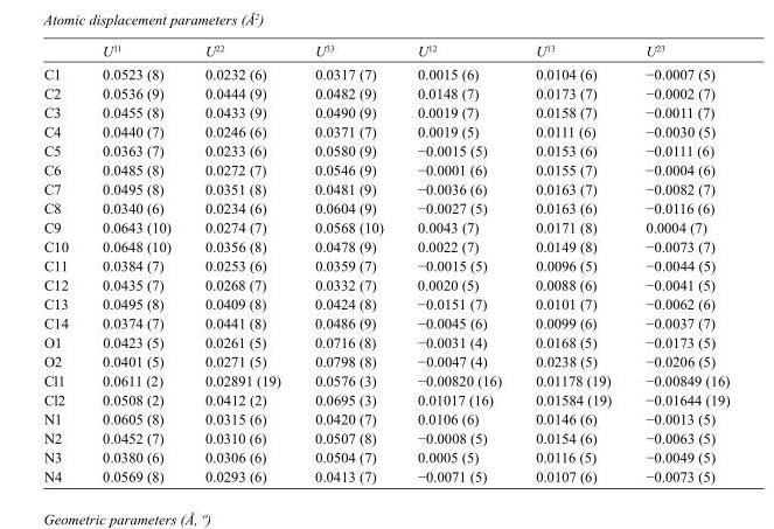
<table><thead><tr><td></td><td>U<sup>11</sup></td><td>U<sup>22</sup></td><td>U<sup>33</sup></td><td>U<sup>12</sup></td><td>U<sup>13</sup></td><td>U<sup>23</sup></td></tr></thead><tbody><tr><td>C1</td><td>0.0523 (8)</td><td>0.0232 (6)</td><td>0.0317 (7)</td><td>0.0015 (6)</td><td>0.0104 (6)</td><td>−0.0007 (5)</td></tr><tr><td>C2</td><td>0.0536 (9)</td><td>0.0444 (9)</td><td>0.0482 (9)</td><td>0.0148 (7)</td><td>0.0173 (7)</td><td>−0.0002 (7)</td></tr><tr><td>C3</td><td>0.0455 (8)</td><td>0.0433 (9)</td><td>0.0490 (9)</td><td>0.0019 (7)</td><td>0.0158 (7)</td><td>−0.0011 (7)</td></tr><tr><td>C4</td><td>0.0440 (7)</td><td>0.0246 (6)</td><td>0.0371 (7)</td><td>0.0019 (5)</td><td>0.0111 (6)</td><td>−0.0030 (5)</td></tr><tr><td>C5</td><td>0.0363 (7)</td><td>0.0233 (6)</td><td>0.0580 (9)</td><td>−0.0015 (5)</td><td>0.0153 (6)</td><td>−0.0111 (6)</td></tr><tr><td>C6</td><td>0.0485 (8)</td><td>0.0272 (7)</td><td>0.0546 (9)</td><td>−0.0001 (6)</td><td>0.0155 (7)</td><td>−0.0004 (6)</td></tr><tr><td>C7</td><td>0.0495 (8)</td><td>0.0351 (8)</td><td>0.0481 (9)</td><td>−0.0036 (6)</td><td>0.0163 (7)</td><td>−0.0082 (7)</td></tr><tr><td>C8</td><td>0.0340 (6)</td><td>0.0234 (6)</td><td>0.0604 (9)</td><td>−0.0027 (5)</td><td>0.0163 (6)</td><td>−0.0116 (6)</td></tr><tr><td>C9</td><td>0.0643 (10)</td><td>0.0274 (7)</td><td>0.0568 (10)</td><td>0.0043 (7)</td><td>0.0171 (8)</td><td>0.0004 (7)</td></tr><tr><td>C10</td><td>0.0648 (10)</td><td>0.0356 (8)</td><td>0.0478 (9)</td><td>0.0022 (7)</td><td>0.0149 (8)</td><td>−0.0073 (7)</td></tr><tr><td>C11</td><td>0.0384 (7)</td><td>0.0253 (6)</td><td>0.0359 (7)</td><td>−0.0015 (5)</td><td>0.0096 (5)</td><td>−0.0044 (5)</td></tr><tr><td>C12</td><td>0.0435 (7)</td><td>0.0268 (7)</td><td>0.0332 (7)</td><td>0.0020 (5)</td><td>0.0088 (6)</td><td>−0.0041 (5)</td></tr><tr><td>C13</td><td>0.0495 (8)</td><td>0.0409 (8)</td><td>0.0424 (8)</td><td>−0.0151 (7)</td><td>0.0101 (7)</td><td>−0.0062 (6)</td></tr><tr><td>C14</td><td>0.0374 (7)</td><td>0.0441 (8)</td><td>0.0486 (9)</td><td>−0.0045 (6)</td><td>0.0099 (6)</td><td>−0.0037 (7)</td></tr><tr><td>O1</td><td>0.0423 (5)</td><td>0.0261 (5)</td><td>0.0716 (8)</td><td>−0.0031 (4)</td><td>0.0168 (5)</td><td>−0.0173 (5)</td></tr><tr><td>O2</td><td>0.0401 (5)</td><td>0.0271 (5)</td><td>0.0798 (8)</td><td>−0.0047 (4)</td><td>0.0238 (5)</td><td>−0.0206 (5)</td></tr><tr><td>Cl1</td><td>0.0611 (2)</td><td>0.02891 (19)</td><td>0.0576 (3)</td><td>−0.00820 (16)</td><td>0.01178 (19)</td><td>−0.00849 (16)</td></tr><tr><td>Cl2</td><td>0.0508 (2)</td><td>0.0412 (2)</td><td>0.0695 (3)</td><td>0.01017 (16)</td><td>0.01584 (19)</td><td>−0.01644 (19)</td></tr><tr><td>N1</td><td>0.0605 (8)</td><td>0.0315 (6)</td><td>0.0420 (7)</td><td>0.0106 (6)</td><td>0.0146 (6)</td><td>−0.0013 (5)</td></tr><tr><td>N2</td><td>0.0452 (7)</td><td>0.0310 (6)</td><td>0.0507 (8)</td><td>−0.0008 (5)</td><td>0.0154 (6)</td><td>−0.0063 (5)</td></tr><tr><td>N3</td><td>0.0380 (6)</td><td>0.0306 (6)</td><td>0.0504 (7)</td><td>0.0005 (5)</td><td>0.0116 (5)</td><td>−0.0049 (5)</td></tr><tr><td>N4</td><td>0.0569 (8)</td><td>0.0293 (6)</td><td>0.0413 (7)</td><td>−0.0071 (5)</td><td>0.0107 (6)</td><td>−0.0073 (5)</td></tr></tbody></table>